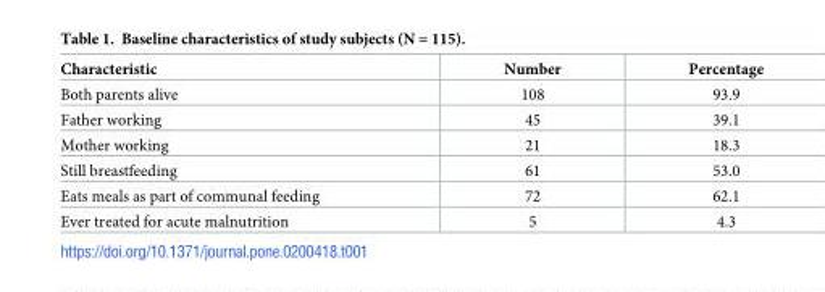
<table><thead><tr><td>Characteristic</td><td>Number</td><td>Percentage</td></tr></thead><tbody><tr><td>Both parents alive</td><td>108</td><td>93.9</td></tr><tr><td>Father working</td><td>45</td><td>39.1</td></tr><tr><td>Mother working</td><td>21</td><td>18.3</td></tr><tr><td>Still breastfeeding</td><td>61</td><td>53.0</td></tr><tr><td>Eats meals as part of communal feeding</td><td>72</td><td>62.1</td></tr><tr><td>Ever treated for acute malnutrition</td><td>5</td><td>4.3</td></tr></tbody></table>